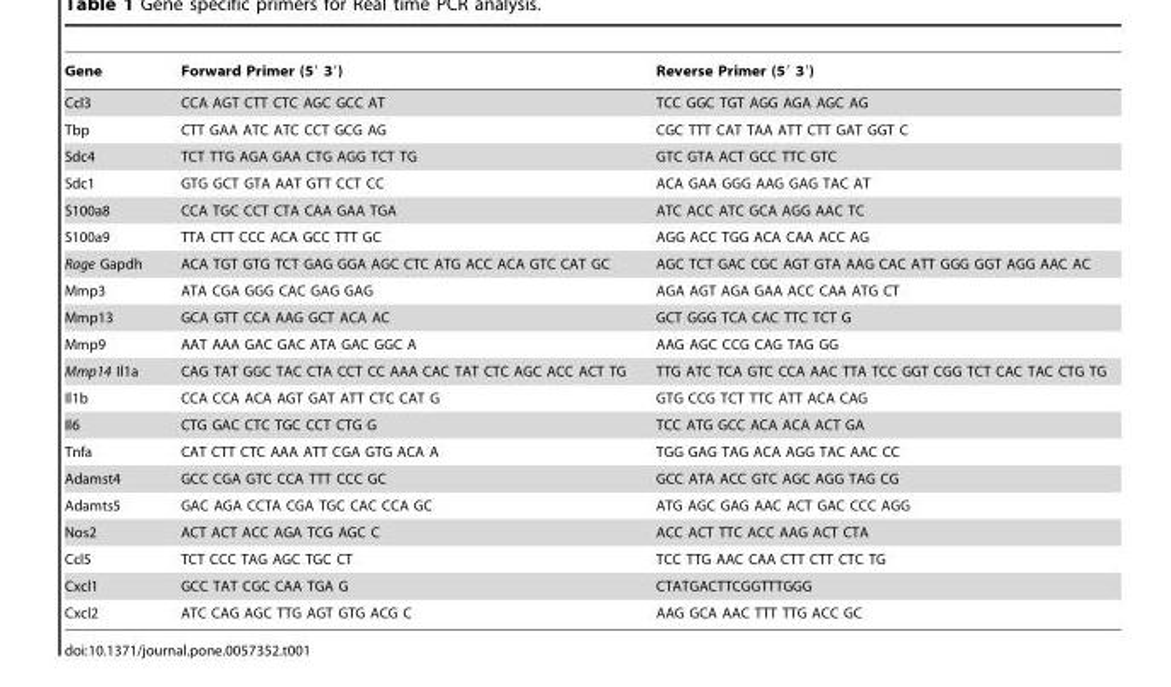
<table><thead><tr><td>Gene</td><td>Forward Primer (5′ 3′)</td><td>Reverse Primer (5′ 3′)</td></tr></thead><tbody><tr><td>Ccl3</td><td>CCA AGT CTT CTC AGC GCC AT</td><td>TCC GGC TGT AGG AGA AGC AG</td></tr><tr><td>Tbp</td><td>CTT GAA ATC ATC CCT GCG AG</td><td>CGC TTT CAT TAA ATT CTT GAT GGT C</td></tr><tr><td>Sdc4</td><td>TCT TTG AGA GAA CTG AGG TCT TG</td><td>GTC GTA ACT GCC TTC GTC</td></tr><tr><td>Sdc1</td><td>GTG GCT GTA AAT GTT CCT CC</td><td>ACA GAA GGG AAG GAG TAC AT</td></tr><tr><td>S100a8</td><td>CCA TGC CCT CTA CAA GAA TGA</td><td>ATC ACC ATC GCA AGG AAC TC</td></tr><tr><td>S100a9</td><td>TTA CTT CCC ACA GCC TTT GC</td><td>AGG ACC TGG ACA CAA ACC AG</td></tr><tr><td>Rage Gapdh</td><td>ACA TGT GTG TCT GAG GGA AGC CTC ATG ACC ACA GTC CAT GC</td><td>AGC TCT GAC CGC AGT GTA AAG CAC ATT GGG GGT AGG AAC AC</td></tr><tr><td>Mmp3</td><td>ATA CGA GGG CAC GAG GAG</td><td>AGA AGT AGA GAA ACC CAA ATG CT</td></tr><tr><td>Mmp13</td><td>GCA GTT CCA AAG GCT ACA AC</td><td>GCT GGG TCA CAC TTC TCT G</td></tr><tr><td>Mmp9</td><td>AAT AAA GAC GAC ATA GAC GGC A</td><td>AAG AGC CCG CAG TAG GG</td></tr><tr><td>Mmp14 Il1a</td><td>CAG TAT GGC TAC CTA CCT CC AAA CAC TAT CTC AGC ACC ACT TG</td><td>TTG ATC TCA GTC CCA AAC TTA TCC GGT CGG TCT CAC TAC CTG TG</td></tr><tr><td>Il1b</td><td>CCA CCA ACA AGT GAT ATT CTC CAT G</td><td>GTG CCG TCT TTC ATT ACA CAG</td></tr><tr><td>Il6</td><td>CTG GAC CTC TGC CCT CTG G</td><td>TCC ATG GCC ACA ACA ACT GA</td></tr><tr><td>Tnfa</td><td>CAT CTT CTC AAA ATT CGA GTG ACA A</td><td>TGG GAG TAG ACA AGG TAC AAC CC</td></tr><tr><td>Adamst4</td><td>GCC CGA GTC CCA TTT CCC GC</td><td>GCC ATA ACC GTC AGC AGG TAG CG</td></tr><tr><td>Adamts5</td><td>GAC AGA CCTA CGA TGC CAC CCA GC</td><td>ATG AGC GAG AAC ACT GAC CCC AGG</td></tr><tr><td>Nos2</td><td>ACT ACT ACC AGA TCG AGC C</td><td>ACC ACT TTC ACC AAG ACT CTA</td></tr><tr><td>Ccl5</td><td>TCT CCC TAG AGC TGC CT</td><td>TCC TTG AAC CAA CTT CTT CTC TG</td></tr><tr><td>Cxcl1</td><td>GCC TAT CGC CAA TGA G</td><td>CTATGACTTCGGTTTGGG</td></tr><tr><td>Cxcl2</td><td>ATC CAG AGC TTG AGT GTG ACG C</td><td>AAG GCA AAC TTT TTG ACC GC</td></tr></tbody></table>